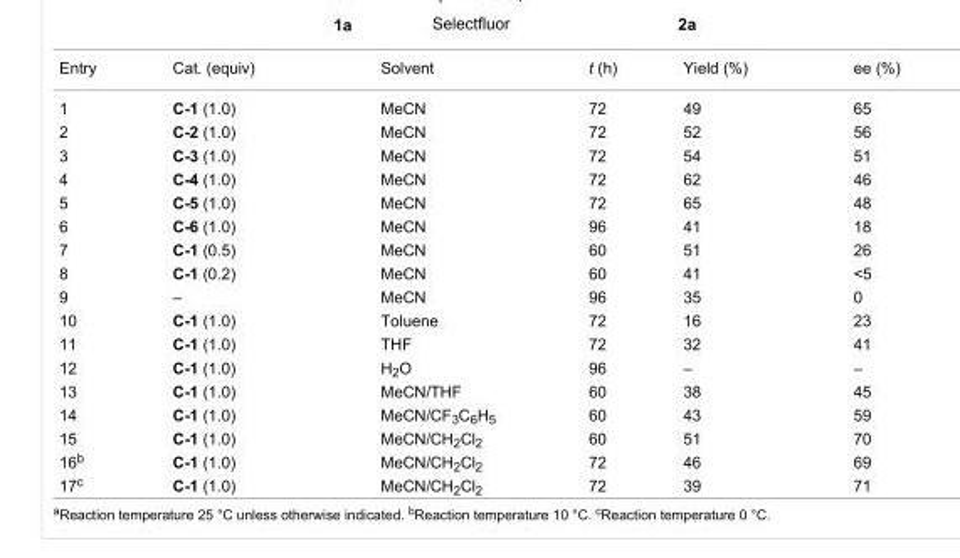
<table><tbody><tr><td>Entry</td><td>Cat. (equiv)</td><td>Solvent</td><td>t (h)</td><td>Yield (%)</td><td>ee (%)</td></tr><tr><td>1</td><td>C-1 (1.0)</td><td>MeCN</td><td>72</td><td>49</td><td>65</td></tr><tr><td>2</td><td>C-2 (1.0)</td><td>MeCN</td><td>72</td><td>52</td><td>56</td></tr><tr><td>3</td><td>C-3 (1.0)</td><td>MeCN</td><td>72</td><td>54</td><td>51</td></tr><tr><td>4</td><td>C-4 (1.0)</td><td>MeCN</td><td>72</td><td>62</td><td>46</td></tr><tr><td>5</td><td>C-5 (1.0)</td><td>MeCN</td><td>72</td><td>65</td><td>48</td></tr><tr><td>6</td><td>C-6 (1.0)</td><td>MeCN</td><td>96</td><td>41</td><td>18</td></tr><tr><td>7</td><td>C-1 (0.5)</td><td>MeCN</td><td>60</td><td>51</td><td>26</td></tr><tr><td>8</td><td>C-1 (0.2)</td><td>MeCN</td><td>60</td><td>41</td><td>&lt;5</td></tr><tr><td>9</td><td>–</td><td>MeCN</td><td>96</td><td>35</td><td>0</td></tr><tr><td>10</td><td>C-1 (1.0)</td><td>Toluene</td><td>72</td><td>16</td><td>23</td></tr><tr><td>11</td><td>C-1 (1.0)</td><td>THF</td><td>72</td><td>32</td><td>41</td></tr><tr><td>12</td><td>C-1 (1.0)</td><td>H<sub>2</sub>O</td><td>96</td><td>–</td><td>–</td></tr><tr><td>13</td><td>C-1 (1.0)</td><td>MeCN/THF</td><td>60</td><td>38</td><td>45</td></tr><tr><td>14</td><td>C-1 (1.0)</td><td>MeCN/CF<sub>3</sub>C<sub>6</sub>H<sub>5</sub></td><td>60</td><td>43</td><td>59</td></tr><tr><td>15</td><td>C-1 (1.0)</td><td>MeCN/CH<sub>2</sub>Cl<sub>2</sub></td><td>60</td><td>51</td><td>70</td></tr><tr><td>16<sup>b</sup></td><td>C-1 (1.0)</td><td>MeCN/CH<sub>2</sub>Cl<sub>2</sub></td><td>72</td><td>46</td><td>69</td></tr><tr><td>17<sup>c</sup></td><td>C-1 (1.0)</td><td>MeCN/CH<sub>2</sub>Cl<sub>2</sub></td><td>72</td><td>39</td><td>71</td></tr></tbody></table>